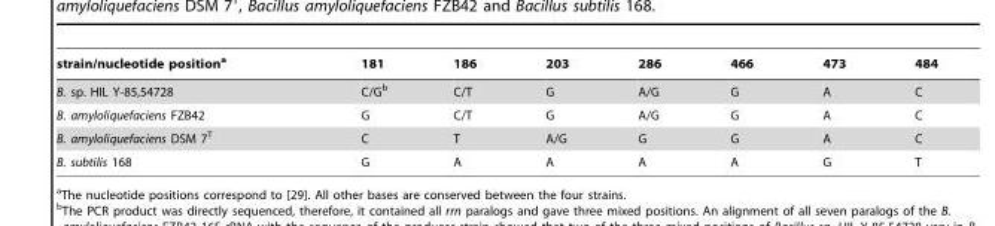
<table><thead><tr><td>strain/nucleotide position<sup>a</sup></td><td>181</td><td>186</td><td>203</td><td>286</td><td>466</td><td>473</td><td>484</td></tr></thead><tbody><tr><td>B. sp. HIL Y-85,54728</td><td>C/G<sup>b</sup></td><td>C/T</td><td>G</td><td>A/G</td><td>G</td><td>A</td><td>C</td></tr><tr><td>B. amyloliquefaciens FZB42</td><td>G</td><td>C/T</td><td>G</td><td>A/G</td><td>G</td><td>A</td><td>C</td></tr><tr><td>B. amyloliquefaciens DSM 7<sup>T</sup></td><td>C</td><td>T</td><td>A/G</td><td>G</td><td>G</td><td>A</td><td>C</td></tr><tr><td>B. subtilis 168</td><td>G</td><td>A</td><td>A</td><td>A</td><td>A</td><td>G</td><td>T</td></tr></tbody></table>